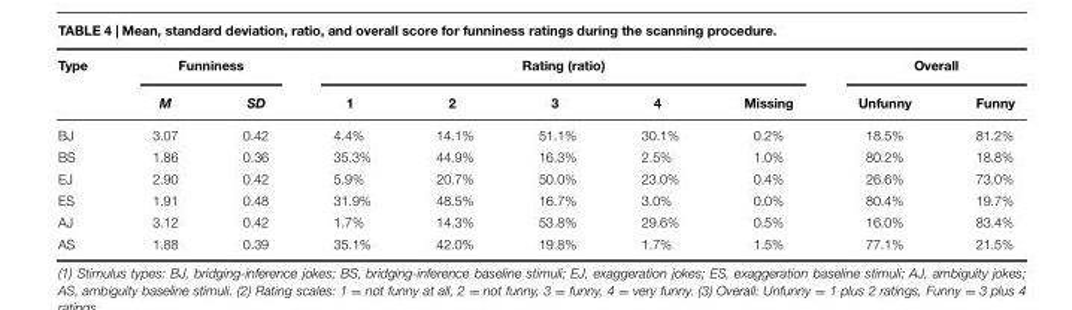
<table><thead><tr><td rowspan="2">Type</td><td colspan="2">Funniness</td><td colspan="5">Rating (ratio)</td><td colspan="2">Overall</td></tr><tr><td>M</td><td>SD</td><td>1</td><td>2</td><td>3</td><td>4</td><td>Missing</td><td>Unfunny</td><td>Funny</td></tr></thead><tbody><tr><td>BJ</td><td>3.07</td><td>0.42</td><td>4.4%</td><td>14.1%</td><td>51.1%</td><td>30.1%</td><td>0.2%</td><td>18.5%</td><td>81.2%</td></tr><tr><td>BS</td><td>1.86</td><td>0.36</td><td>35.3%</td><td>44.9%</td><td>16.3%</td><td>2.5%</td><td>1.0%</td><td>80.2%</td><td>18.8%</td></tr><tr><td>EJ</td><td>2.90</td><td>0.42</td><td>5.9%</td><td>20.7%</td><td>50.0%</td><td>23.0%</td><td>0.4%</td><td>26.6%</td><td>73.0%</td></tr><tr><td>ES</td><td>1.91</td><td>0.48</td><td>31.9%</td><td>48.5%</td><td>16.7%</td><td>3.0%</td><td>0.0%</td><td>80.4%</td><td>19.7%</td></tr><tr><td>AJ</td><td>3.12</td><td>0.42</td><td>1.7%</td><td>14.3%</td><td>53.8%</td><td>29.6%</td><td>0.5%</td><td>16.0%</td><td>83.4%</td></tr><tr><td>AS</td><td>1.88</td><td>0.39</td><td>35.1%</td><td>42.0%</td><td>19.8%</td><td>1.7%</td><td>1.5%</td><td>77.1%</td><td>21.5%</td></tr></tbody></table>